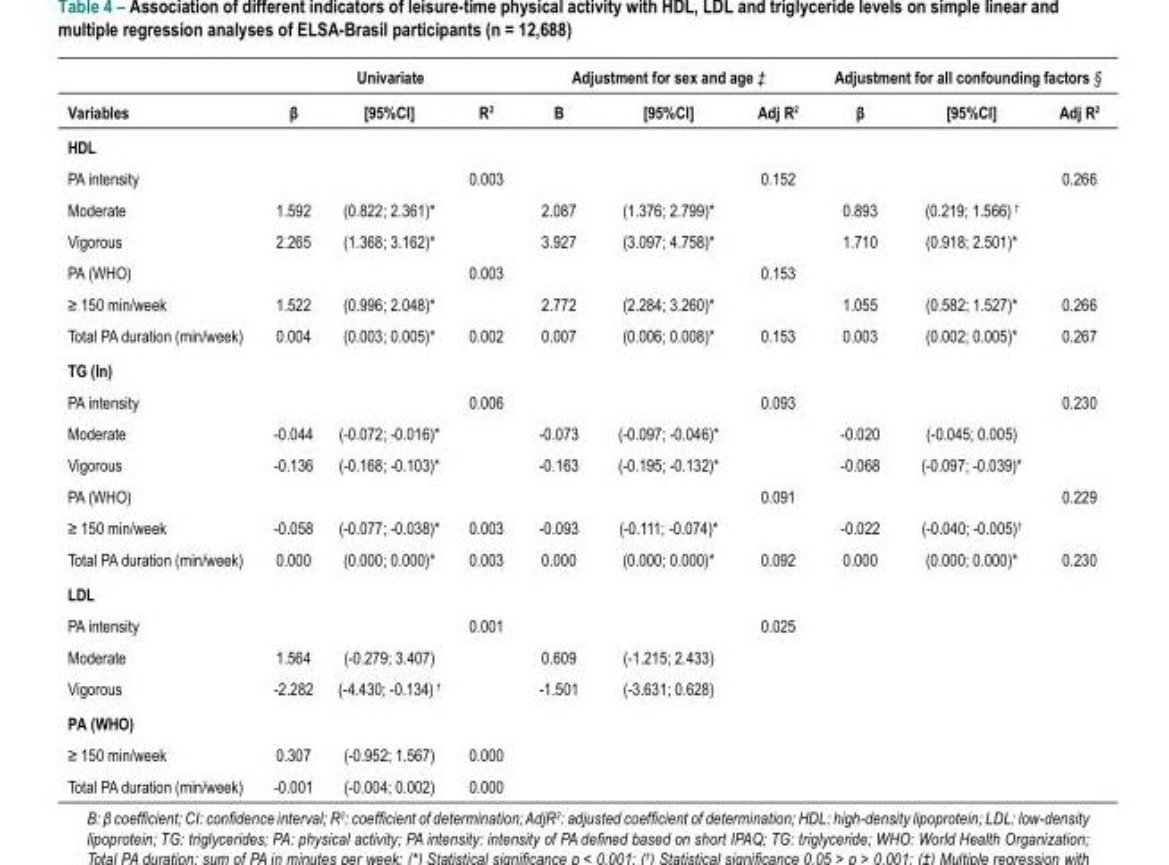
<table><thead><tr><td rowspan="2">Variables</td><td colspan="3">Univariate</td><td colspan="3">Adjustment for sex and age ‡</td><td colspan="3">Adjustment for all confounding factors §</td></tr><tr><td>β</td><td>[95%CI]</td><td>R<sup>2</sup></td><td>Β</td><td>[95%CI]</td><td>Adj R<sup>2</sup></td><td>β</td><td>[95%CI]</td><td>Adj R<sup>2</sup></td></tr></thead><tbody><tr><td colspan="10">HDL</td></tr><tr><td>PA intensity</td><td></td><td></td><td>0.003</td><td></td><td></td><td>0.152</td><td></td><td></td><td>0.266</td></tr><tr><td>Moderate</td><td>1.592</td><td>(0.822; 2.361)*</td><td></td><td>2.087</td><td>(1.376; 2.799)*</td><td></td><td>0.893</td><td>(0.219; 1.566) †</td><td></td></tr><tr><td>Vigorous</td><td>2.265</td><td>(1.368; 3.162)*</td><td></td><td>3.927</td><td>(3.097; 4.758)*</td><td></td><td>1.710</td><td>(0.918; 2.501)*</td><td></td></tr><tr><td>PA (WHO)</td><td></td><td></td><td>0.003</td><td></td><td></td><td>0.153</td><td></td><td></td><td></td></tr><tr><td>≥ 150 min/week</td><td>1.522</td><td>(0.996; 2.048)*</td><td></td><td>2.772</td><td>(2.284; 3.260)*</td><td></td><td>1.055</td><td>(0.582; 1.527)*</td><td>0.266</td></tr><tr><td>Total PA duration (min/week)</td><td>0.004</td><td>(0.003; 0.005)*</td><td>0.002</td><td>0.007</td><td>(0.006; 0.008)*</td><td>0.153</td><td>0.003</td><td>(0.002; 0.005)*</td><td>0.267</td></tr><tr><td colspan="10">TG (ln)</td></tr><tr><td>PA intensity</td><td></td><td></td><td>0.006</td><td></td><td></td><td>0.093</td><td></td><td></td><td>0.230</td></tr><tr><td>Moderate</td><td>-0.044</td><td>(-0.072; -0.016)*</td><td></td><td>-0.073</td><td>(-0.097; -0.046)*</td><td></td><td>-0.020</td><td>(-0.045; 0.005)</td><td></td></tr><tr><td>Vigorous</td><td>-0.136</td><td>(-0.168; -0.103)*</td><td></td><td>-0.163</td><td>(-0.195; -0.132)*</td><td></td><td>-0.068</td><td>(-0.097; -0.039)*</td><td></td></tr><tr><td>PA (WHO)</td><td></td><td></td><td></td><td></td><td></td><td>0.091</td><td></td><td></td><td>0.229</td></tr><tr><td>≥ 150 min/week</td><td>-0.058</td><td>(-0.077; -0.038)*</td><td>0.003</td><td>-0.093</td><td>(-0.111; -0.074)*</td><td></td><td>-0.022</td><td>(-0.040; -0.005)†</td><td></td></tr><tr><td>Total PA duration (min/week)</td><td>0.000</td><td>(0.000; 0.000)*</td><td>0.003</td><td>0.000</td><td>(0.000; 0.000)*</td><td>0.092</td><td>0.000</td><td>(0.000; 0.000)*</td><td>0.230</td></tr><tr><td colspan="10">LDL</td></tr><tr><td>PA intensity</td><td></td><td></td><td>0.001</td><td></td><td></td><td>0.025</td><td></td><td></td><td></td></tr><tr><td>Moderate</td><td>1.564</td><td>(-0.279; 3.407)</td><td></td><td>0.609</td><td>(-1.215; 2.433)</td><td></td><td></td><td></td><td></td></tr><tr><td>Vigorous</td><td>-2.282</td><td>(-4.430; -0.134) †</td><td></td><td>-1.501</td><td>(-3.631; 0.628)</td><td></td><td></td><td></td><td></td></tr><tr><td colspan="10">PA (WHO)</td></tr><tr><td>≥ 150 min/week</td><td>0.307</td><td>(-0.952; 1.567)</td><td>0.000</td><td></td><td></td><td></td><td></td><td></td><td></td></tr><tr><td>Total PA duration (min/week)</td><td>-0.001</td><td>(-0.004; 0.002)</td><td>0.000</td><td></td><td></td><td></td><td></td><td></td><td></td></tr></tbody></table>